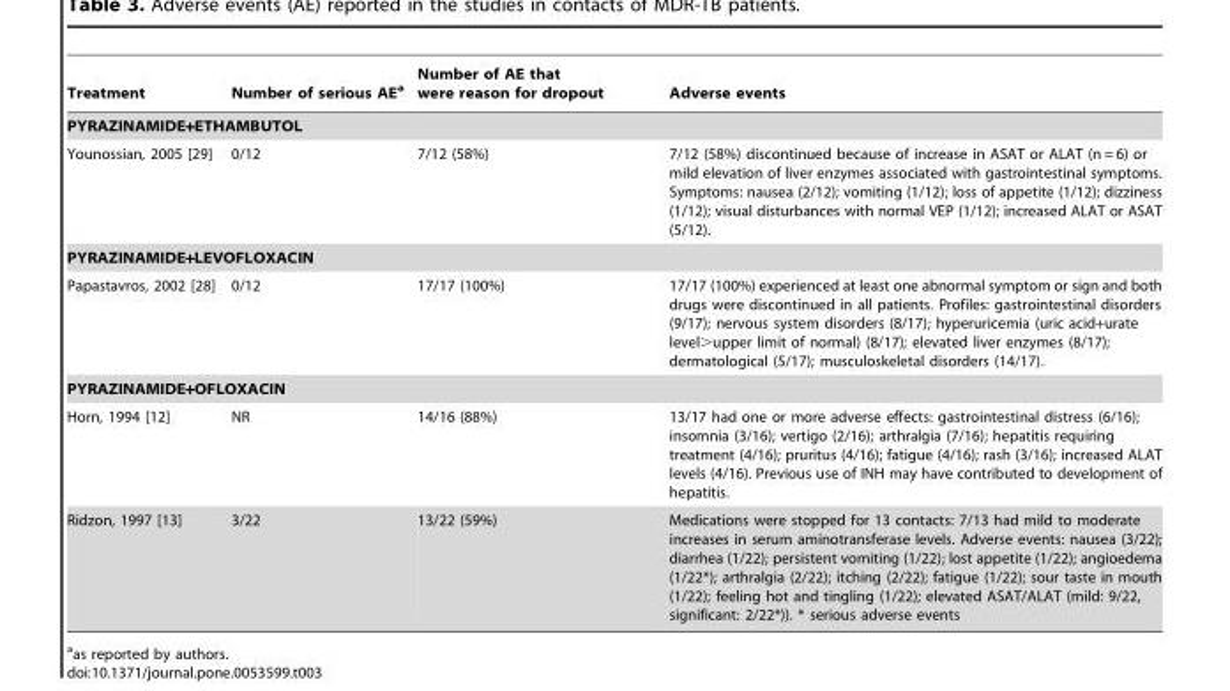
<table><thead><tr><td>Treatment</td><td>Number of serious AE<sup>a</sup></td><td>Number of AE that were reason for dropout</td><td>Adverse events</td></tr></thead><tbody><tr><td colspan="4">PYRAZINAMIDE+ETHAMBUTOL</td></tr><tr><td>Younossian, 2005 [29]</td><td>0/12</td><td>7/12 (58%)</td><td>7/12 (58%) discontinued because of increase in ASAT or ALAT (n = 6) or mild elevation of liver enzymes associated with gastrointestinal symptoms. Symptoms: nausea (2/12); vomiting (1/12); loss of appetite (1/12); dizziness (1/12); visual disturbances with normal VEP (1/12); increased ALAT or ASAT (5/12).</td></tr><tr><td colspan="4">PYRAZINAMIDE+LEVOFLOXACIN</td></tr><tr><td>Papastavros, 2002 [28]</td><td>0/12</td><td>17/17 (100%)</td><td>17/17 (100%) experienced at least one abnormal symptom or sign and both drugs were discontinued in all patients. Profiles: gastrointestinal disorders (9/17); nervous system disorders (8/17); hyperuricemia (uric acid+urate level&gt;upper limit of normal) (8/17); elevated liver enzymes (8/17); dermatological (5/17); musculoskeletal disorders (14/17).</td></tr><tr><td colspan="4">PYRAZINAMIDE+OFLOXACIN</td></tr><tr><td>Horn, 1994 [12]</td><td>NR</td><td>14/16 (88%)</td><td>13/17 had one or more adverse effects: gastrointestinal distress (6/16); insomnia (3/16); vertigo (2/16); arthralgia (7/16); hepatitis requiring treatment (4/16); pruritus (4/16); fatigue (4/16); rash (3/16); increased ALAT levels (4/16). Previous use of INH may have contributed to development of hepatitis.</td></tr><tr><td>Ridzon, 1997 [13]</td><td>3/22</td><td>13/22 (59%)</td><td>Medications were stopped for 13 contacts: 7/13 had mild to moderate increases in serum aminotransferase levels. Adverse events: nausea (3/22); diarrhea (1/22); persistent vomiting (1/22); lost appetite (1/22); angioedema (1/22*); arthralgia (2/22); itching (2/22); fatigue (1/22); sour taste in mouth (1/22); feeling hot and tingling (1/22); elevated ASAT/ALAT (mild: 9/22, significant: 2/22*)). * serious adverse events</td></tr></tbody></table>